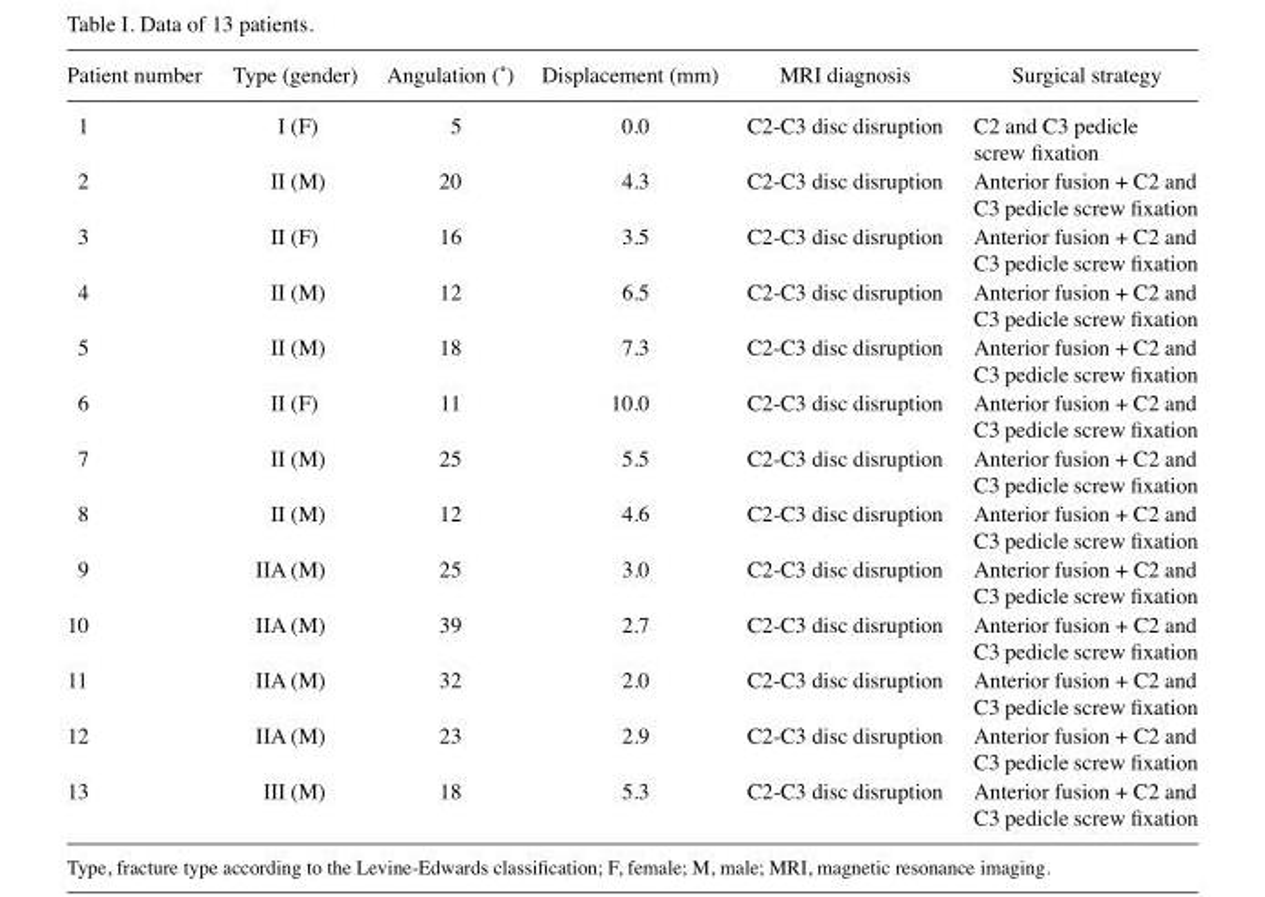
<table><thead><tr><td>Patient number</td><td>Type (gender)</td><td>Angulation (˚)</td><td>Displacement (mm)</td><td>MRI diagnosis</td><td>Surgical strategy</td></tr></thead><tbody><tr><td>1</td><td>I (F)</td><td>5</td><td>0.0</td><td>C2-C3 disc disruption</td><td>C2 and C3 pedicle screw fixation</td></tr><tr><td>2</td><td>II (M)</td><td>20</td><td>4.3</td><td>C2-C3 disc disruption</td><td>Anterior fusion + C2 and C3 pedicle screw fixation</td></tr><tr><td>3</td><td>II (F)</td><td>16</td><td>3.5</td><td>C2-C3 disc disruption</td><td>Anterior fusion + C2 and C3 pedicle screw fixation</td></tr><tr><td>4</td><td>II (M)</td><td>12</td><td>6.5</td><td>C2-C3 disc disruption</td><td>Anterior fusion + C2 and C3 pedicle screw fixation</td></tr><tr><td>5</td><td>II (M)</td><td>18</td><td>7.3</td><td>C2-C3 disc disruption</td><td>Anterior fusion + C2 and C3 pedicle screw fixation</td></tr><tr><td>6</td><td>II (F)</td><td>11</td><td>10.0</td><td>C2-C3 disc disruption</td><td>Anterior fusion + C2 and C3 pedicle screw fixation</td></tr><tr><td>7</td><td>II (M)</td><td>25</td><td>5.5</td><td>C2-C3 disc disruption</td><td>Anterior fusion + C2 and C3 pedicle screw fixation</td></tr><tr><td>8</td><td>II (M)</td><td>12</td><td>4.6</td><td>C2-C3 disc disruption</td><td>Anterior fusion + C2 and C3 pedicle screw fixation</td></tr><tr><td>9</td><td>IIA (M)</td><td>25</td><td>3.0</td><td>C2-C3 disc disruption</td><td>Anterior fusion + C2 and C3 pedicle screw fixation</td></tr><tr><td>10</td><td>IIA (M)</td><td>39</td><td>2.7</td><td>C2-C3 disc disruption</td><td>Anterior fusion + C2 and C3 pedicle screw fixation</td></tr><tr><td>11</td><td>IIA (M)</td><td>32</td><td>2.0</td><td>C2-C3 disc disruption</td><td>Anterior fusion + C2 and C3 pedicle screw fixation</td></tr><tr><td>12</td><td>IIA (M)</td><td>23</td><td>2.9</td><td>C2-C3 disc disruption</td><td>Anterior fusion + C2 and C3 pedicle screw fixation</td></tr><tr><td>13</td><td>Ⅲ (M)</td><td>18</td><td>5.3</td><td>C2‑C3 disc disruption</td><td>Anterior fusion + C2 and C3 pedicle screw fixation</td></tr></tbody></table>